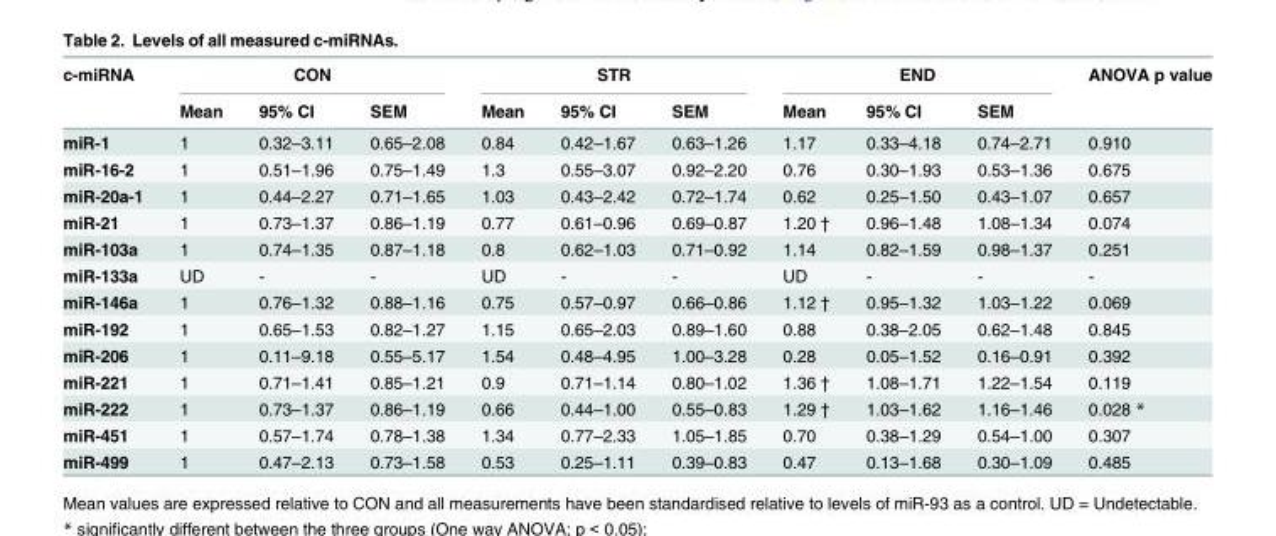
<table><thead><tr><td rowspan="2">c-miRNA</td><td colspan="3">CON</td><td colspan="3">STR</td><td colspan="3">END</td><td rowspan="2">ANOVA p value</td></tr><tr><td>Mean</td><td>95% CI</td><td>SEM</td><td>Mean</td><td>95% CI</td><td>SEM</td><td>Mean</td><td>95% CI</td><td>SEM</td></tr></thead><tbody><tr><td>miR-1</td><td>1</td><td>0.32–3.11</td><td>0.65–2.08</td><td>0.84</td><td>0.42–1.67</td><td>0.63–1.26</td><td>1.17</td><td>0.33–4.18</td><td>0.74–2.71</td><td>0.910</td></tr><tr><td>miR-16-2</td><td>1</td><td>0.51–1.96</td><td>0.75–1.49</td><td>1.3</td><td>0.55–3.07</td><td>0.92–2.20</td><td>0.76</td><td>0.30–1.93</td><td>0.53–1.36</td><td>0.675</td></tr><tr><td>miR-20a-1</td><td>1</td><td>0.44–2.27</td><td>0.71–1.65</td><td>1.03</td><td>0.43–2.42</td><td>0.72–1.74</td><td>0.62</td><td>0.25–1.50</td><td>0.43–1.07</td><td>0.657</td></tr><tr><td>miR-21</td><td>1</td><td>0.73–1.37</td><td>0.86–1.19</td><td>0.77</td><td>0.61–0.96</td><td>0.69–0.87</td><td>1.20 †</td><td>0.96–1.48</td><td>1.08–1.34</td><td>0.074</td></tr><tr><td>miR-103a</td><td>1</td><td>0.74–1.35</td><td>0.87–1.18</td><td>0.8</td><td>0.62–1.03</td><td>0.71–0.92</td><td>1.14</td><td>0.82–1.59</td><td>0.98–1.37</td><td>0.251</td></tr><tr><td>miR-133a</td><td>UD</td><td>-</td><td>-</td><td>UD</td><td>-</td><td>-</td><td>UD</td><td>-</td><td>-</td><td>-</td></tr><tr><td>miR-146a</td><td>1</td><td>0.76–1.32</td><td>0.88–1.16</td><td>0.75</td><td>0.57–0.97</td><td>0.66–0.86</td><td>1.12 †</td><td>0.95–1.32</td><td>1.03–1.22</td><td>0.069</td></tr><tr><td>miR-192</td><td>1</td><td>0.65–1.53</td><td>0.82–1.27</td><td>1.15</td><td>0.65–2.03</td><td>0.89–1.60</td><td>0.88</td><td>0.38–2.05</td><td>0.62–1.48</td><td>0.845</td></tr><tr><td>miR-206</td><td>1</td><td>0.11–9.18</td><td>0.55–5.17</td><td>1.54</td><td>0.48–4.95</td><td>1.00–3.28</td><td>0.28</td><td>0.05–1.52</td><td>0.16–0.91</td><td>0.392</td></tr><tr><td>miR-221</td><td>1</td><td>0.71–1.41</td><td>0.85–1.21</td><td>0.9</td><td>0.71–1.14</td><td>0.80–1.02</td><td>1.36 †</td><td>1.08–1.71</td><td>1.22–1.54</td><td>0.119</td></tr><tr><td>miR-222</td><td>1</td><td>0.73–1.37</td><td>0.86–1.19</td><td>0.66</td><td>0.44–1.00</td><td>0.55–0.83</td><td>1.29 †</td><td>1.03–1.62</td><td>1.16–1.46</td><td>0.028 *</td></tr><tr><td>miR-451</td><td>1</td><td>0.57–1.74</td><td>0.78–1.38</td><td>1.34</td><td>0.77–2.33</td><td>1.05–1.85</td><td>0.70</td><td>0.38–1.29</td><td>0.54–1.00</td><td>0.307</td></tr><tr><td>miR-499</td><td>1</td><td>0.47–2.13</td><td>0.73–1.58</td><td>0.53</td><td>0.25–1.11</td><td>0.39–0.83</td><td>0.47</td><td>0.13–1.68</td><td>0.30–1.09</td><td>0.485</td></tr></tbody></table>